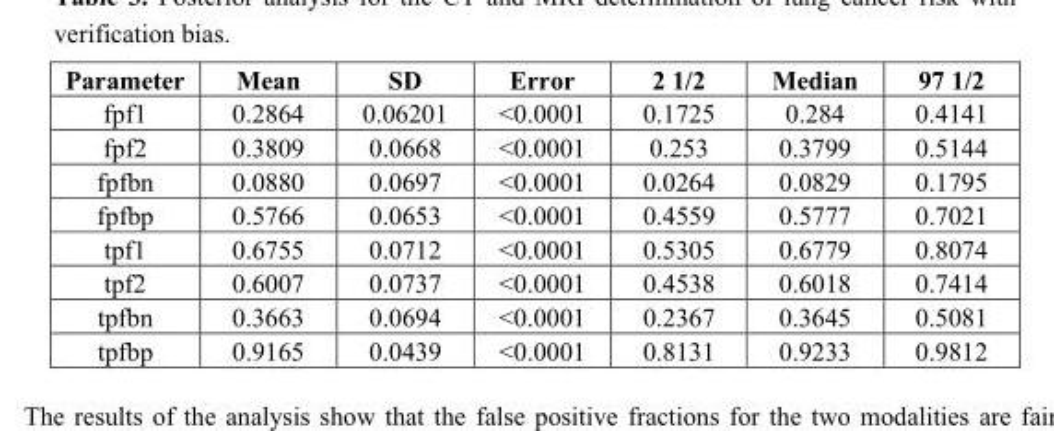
<table><thead><tr><td>Parameter</td><td>Mean</td><td>SD</td><td>Error</td><td>2 1/2</td><td>Median</td><td>97 1/2</td></tr></thead><tbody><tr><td>fpf1</td><td>0.2864</td><td>0.06201</td><td>&lt;0.0001</td><td>0.1725</td><td>0.284</td><td>0.4141</td></tr><tr><td>fpf2</td><td>0.3809</td><td>0.0668</td><td>&lt;0.0001</td><td>0.253</td><td>0.3799</td><td>0.5144</td></tr><tr><td>fpfbn</td><td>0.0880</td><td>0.0697</td><td>&lt;0.0001</td><td>0.0264</td><td>0.0829</td><td>0.1795</td></tr><tr><td>fpfbp</td><td>0.5766</td><td>0.0653</td><td>&lt;0.0001</td><td>0.4559</td><td>0.5777</td><td>0.7021</td></tr><tr><td>tpf1</td><td>0.6755</td><td>0.0712</td><td>&lt;0.0001</td><td>0.5305</td><td>0.6779</td><td>0.8074</td></tr><tr><td>tpf2</td><td>0.6007</td><td>0.0737</td><td>&lt;0.0001</td><td>0.4538</td><td>0.6018</td><td>0.7414</td></tr><tr><td>tpfbn</td><td>0.3663</td><td>0.0694</td><td>&lt;0.0001</td><td>0.2367</td><td>0.3645</td><td>0.5081</td></tr><tr><td>tpfbp</td><td>0.9165</td><td>0.0439</td><td>&lt;0.0001</td><td>0.8131</td><td>0.9233</td><td>0.9812</td></tr></tbody></table>